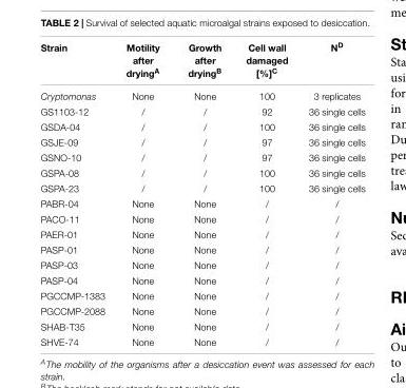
<table><thead><tr><td>Strain</td><td>Motility after drying<sup>A</sup></td><td>Growth after drying<sup>B</sup></td><td>Cell wall damaged [%]<sup>C</sup></td><td>N<sup>D</sup></td></tr></thead><tbody><tr><td>Cryptomonas</td><td>None</td><td>None</td><td>100</td><td>3 replicates</td></tr><tr><td>GS1103-12</td><td>/</td><td>/</td><td>92</td><td>36 single cells</td></tr><tr><td>GSDA-04</td><td>/</td><td>/</td><td>100</td><td>36 single cells</td></tr><tr><td>GSJE-09</td><td>/</td><td>/</td><td>97</td><td>36 single cells</td></tr><tr><td>GSNO-10</td><td>/</td><td>/</td><td>97</td><td>36 single cells</td></tr><tr><td>GSPA-08</td><td>/</td><td>/</td><td>100</td><td>36 single cells</td></tr><tr><td>GSPA-23</td><td>/</td><td>/</td><td>100</td><td>36 single cells</td></tr><tr><td>PABR-04</td><td>None</td><td>None</td><td>/</td><td>/</td></tr><tr><td>PACO-11</td><td>None</td><td>None</td><td>/</td><td>/</td></tr><tr><td>PAER-01</td><td>None</td><td>None</td><td>/</td><td>/</td></tr><tr><td>PASP-01</td><td>None</td><td>None</td><td>/</td><td>/</td></tr><tr><td>PASP-03</td><td>None</td><td>None</td><td>/</td><td>/</td></tr><tr><td>PASP-04</td><td>None</td><td>None</td><td>/</td><td>/</td></tr><tr><td>PGCCMP-1383</td><td>None</td><td>None</td><td>/</td><td>/</td></tr><tr><td>PGCCMP-2088</td><td>None</td><td>None</td><td>/</td><td>/</td></tr><tr><td>SHAB-T35</td><td>None</td><td>None</td><td>/</td><td>/</td></tr><tr><td>SHVE-74</td><td>None</td><td>None</td><td>/</td><td>/</td></tr></tbody></table>